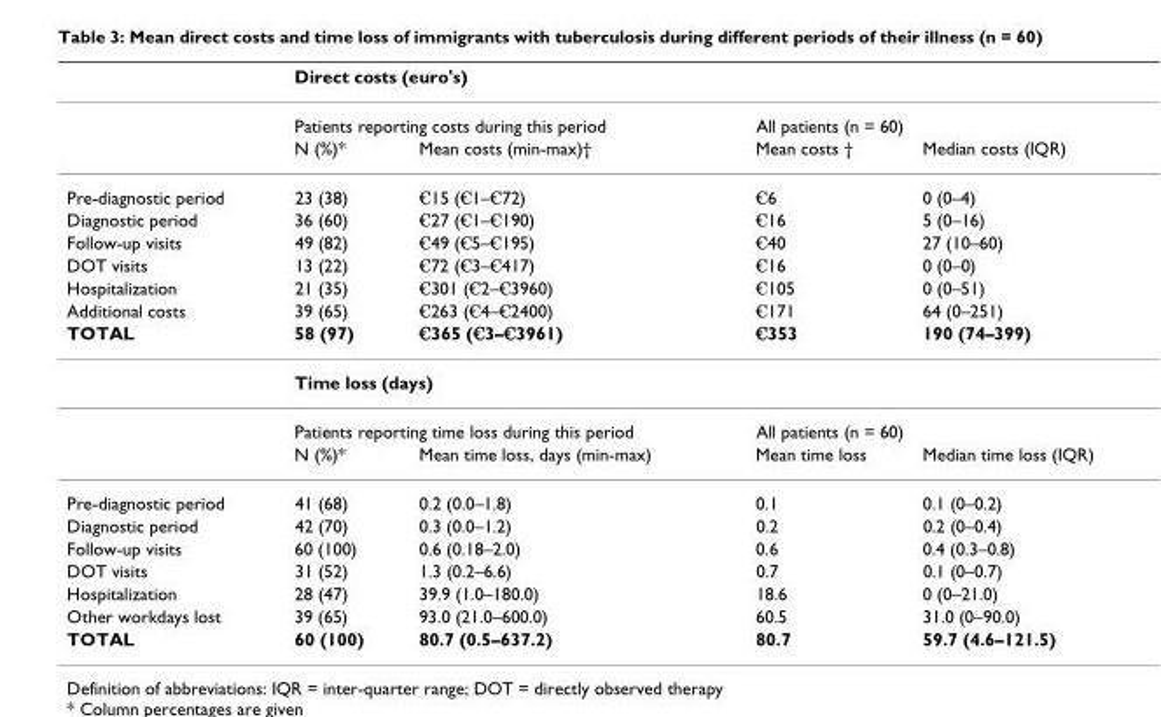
<table><thead><tr><td rowspan="3"></td><td colspan="4">Direct costs (euro&#x27;s)</td></tr><tr><td colspan="2">Patients reporting costs during this period</td><td colspan="2">All patients (n = 60)</td></tr><tr><td>N (%)*</td><td>Mean costs (min-max)†</td><td>Mean costs †</td><td>Median costs (IQR)</td></tr></thead><tbody><tr><td>Pre-diagnostic period</td><td>23 (38)</td><td>€15 (€1–€72)</td><td>€6</td><td>0 (0–4)</td></tr><tr><td>Diagnostic period</td><td>36 (60)</td><td>€27 (€1–€190)</td><td>€16</td><td>5 (0–16)</td></tr><tr><td>Follow-up visits</td><td>49 (82)</td><td>€49 (€5–€195)</td><td>€40</td><td>27 (10–60)</td></tr><tr><td>DOT visits</td><td>13 (22)</td><td>€72 (€3–€417)</td><td>€16</td><td>0 (0–0)</td></tr><tr><td>Hospitalization</td><td>21 (35)</td><td>€301 (€2–€3960)</td><td>€105</td><td>0 (0–51)</td></tr><tr><td>Additional costs</td><td>39 (65)</td><td>€263 (€4–€2400)</td><td>€171</td><td>64 (0–251)</td></tr><tr><td rowspan="4">TOTAL</td><td>58 (97)</td><td>€365 (€3–€3961)</td><td>€353</td><td>190 (74–399)</td></tr><tr><td colspan="4">Time loss (days)</td></tr><tr><td colspan="2">Patients reporting time loss during this period</td><td colspan="2">All patients (n = 60)</td></tr><tr><td>N (%)*</td><td>Mean time loss, days (min-max)</td><td>Mean time loss</td><td>Median time loss (IQR)</td></tr><tr><td>Pre-diagnostic period</td><td>41 (68)</td><td>0.2 (0.0–1.8)</td><td>0.1</td><td>0.1 (0–0.2)</td></tr><tr><td>Diagnostic period</td><td>42 (70)</td><td>0.3 (0.0–1.2)</td><td>0.2</td><td>0.2 (0–0.4)</td></tr><tr><td>Follow-up visits</td><td>60 (100)</td><td>0.6 (0.18–2.0)</td><td>0.6</td><td>0.4 (0.3–0.8)</td></tr><tr><td>DOT visits</td><td>31 (52)</td><td>1.3 (0.2–6.6)</td><td>0.7</td><td>0.1 (0–0.7)</td></tr><tr><td>Hospitalization</td><td>28 (47)</td><td>39.9 (1.0–180.0)</td><td>18.6</td><td>0 (0–21.0)</td></tr><tr><td>Other workdays lost</td><td>39 (65)</td><td>93.0 (21.0–600.0)</td><td>60.5</td><td>31.0 (0–90.0)</td></tr><tr><td>TOTAL</td><td>60 (100)</td><td>80.7 (0.5–637.2)</td><td>80.7</td><td>59.7 (4.6–121.5)</td></tr></tbody></table>